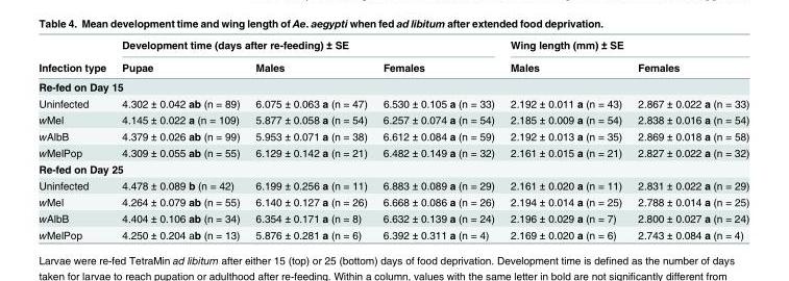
<table><thead><tr><td rowspan="2">Infection type</td><td colspan="3">Development time (days after re-feeding) ± SE</td><td colspan="2">Wing length (mm) ± SE</td></tr><tr><td>Pupae</td><td>Males</td><td>Females</td><td>Males</td><td>Females</td></tr></thead><tbody><tr><td colspan="6">Re-fed on Day 15</td></tr><tr><td>Uninfected</td><td>4.302 ± 0.042 ab (n = 89)</td><td>6.075 ± 0.063 a (n = 47)</td><td>6.530 ± 0.105 a (n = 33)</td><td>2.192 ± 0.011 a (n = 43)</td><td>2.867 ± 0.022 a (n = 33)</td></tr><tr><td>wMel</td><td>4.145 ± 0.022 a (n = 109)</td><td>5.877 ± 0.058 a (n = 54)</td><td>6.257 ± 0.074 a (n = 54)</td><td>2.185 ± 0.009 a (n = 54)</td><td>2.838 ± 0.016 a (n = 54)</td></tr><tr><td>wAlbB</td><td>4.379 ± 0.026 ab (n = 99)</td><td>5.953 ± 0.071 a (n = 38)</td><td>6.612 ± 0.084 a (n = 59)</td><td>2.192 ± 0.013 a (n = 35)</td><td>2.869 ± 0.018 a (n = 58)</td></tr><tr><td>wMelPop</td><td>4.309 ± 0.055 ab (n = 55)</td><td>6.129 ± 0.142 a (n = 21)</td><td>6.482 ± 0.149 a (n = 32)</td><td>2.161 ± 0.015 a (n = 21)</td><td>2.827 ± 0.022 a (n = 32)</td></tr><tr><td colspan="6">Re-fed on Day 25</td></tr><tr><td>Uninfected</td><td>4.478 ± 0.089 b (n = 42)</td><td>6.199 ± 0.256 a (n = 11)</td><td>6.883 ± 0.089 a (n = 29)</td><td>2.161 ± 0.020 a (n = 11)</td><td>2.831 ± 0.022 a (n = 29)</td></tr><tr><td>wMel</td><td>4.264 ± 0.079 ab (n = 55)</td><td>6.140 ± 0.127 a (n = 26)</td><td>6.668 ± 0.086 a (n = 26)</td><td>2.194 ± 0.014 a (n = 25)</td><td>2.788 ± 0.014 a (n = 25)</td></tr><tr><td>wAlbB</td><td>4.404 ± 0.106 ab (n = 34)</td><td>6.354 ± 0.171 a (n = 8)</td><td>6.632 ± 0.139 a (n = 24)</td><td>2.196 ± 0.029 a (n = 7)</td><td>2.800 ± 0.027 a (n = 24)</td></tr><tr><td>wMelPop</td><td>4.250 ± 0.204 ab (n = 13)</td><td>5.876 ± 0.281 a (n = 6)</td><td>6.392 ± 0.311 a (n = 4)</td><td>2.169 ± 0.020 a (n = 6)</td><td>2.743 ± 0.084 a (n = 4)</td></tr></tbody></table>